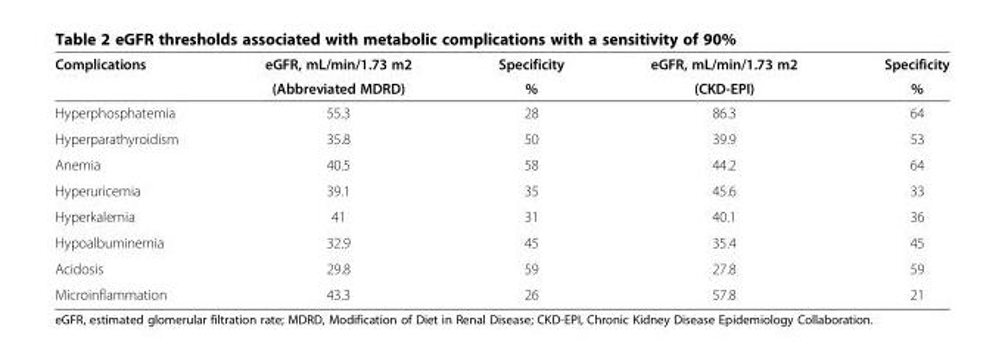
<table><thead><tr><td rowspan="2">Complications</td><td rowspan="2">eGFR, mL/min/1.73 m2 (Abbreviated MDRD)</td><td rowspan="2">Specificity %</td><td rowspan="2">eGFR, mL/min/1.73 m2 (CKD-EPI)</td><td rowspan="2">Specificity %</td></tr><tr></tr></thead><tbody><tr><td>Hyperphosphatemia</td><td>55.3</td><td>28</td><td>86.3</td><td>64</td></tr><tr><td>Hyperparathyroidism</td><td>35.8</td><td>50</td><td>39.9</td><td>53</td></tr><tr><td>Anemia</td><td>40.5</td><td>58</td><td>44.2</td><td>64</td></tr><tr><td>Hyperuricemia</td><td>39.1</td><td>35</td><td>45.6</td><td>33</td></tr><tr><td>Hyperkalemia</td><td>41</td><td>31</td><td>40.1</td><td>36</td></tr><tr><td>Hypoalbuminemia</td><td>32.9</td><td>45</td><td>35.4</td><td>45</td></tr><tr><td>Acidosis</td><td>29.8</td><td>59</td><td>27.8</td><td>59</td></tr><tr><td>Microinflammation</td><td>43.3</td><td>26</td><td>57.8</td><td>21</td></tr></tbody></table>